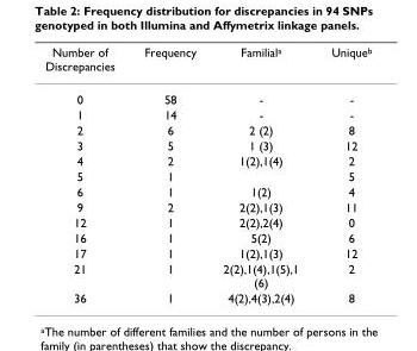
<table><thead><tr><td>Number of Discrepancies</td><td>Frequency</td><td>Familiala</td><td>Uniqueb</td></tr></thead><tbody><tr><td>0</td><td>58</td><td>-</td><td>-</td></tr><tr><td>1</td><td>14</td><td>-</td><td>-</td></tr><tr><td>2</td><td>6</td><td>2 (2)</td><td>8</td></tr><tr><td>3</td><td>5</td><td>1 (3)</td><td>12</td></tr><tr><td>4</td><td>2</td><td>1(2),1(4)</td><td>2</td></tr><tr><td>5</td><td>1</td><td></td><td>5</td></tr><tr><td>6</td><td>1</td><td>1(2)</td><td>4</td></tr><tr><td>9</td><td>2</td><td>2(2),1(3)</td><td>11</td></tr><tr><td>12</td><td>1</td><td>2(2),2(4)</td><td>0</td></tr><tr><td>16</td><td>1</td><td>5(2)</td><td>6</td></tr><tr><td>17</td><td>1</td><td>1(2),1(3)</td><td>12</td></tr><tr><td>21</td><td>1</td><td>2(2),1(4),1(5),1 (6)</td><td>2</td></tr><tr><td>36</td><td>1</td><td>4(2),4(3),2(4)</td><td>8</td></tr></tbody></table>